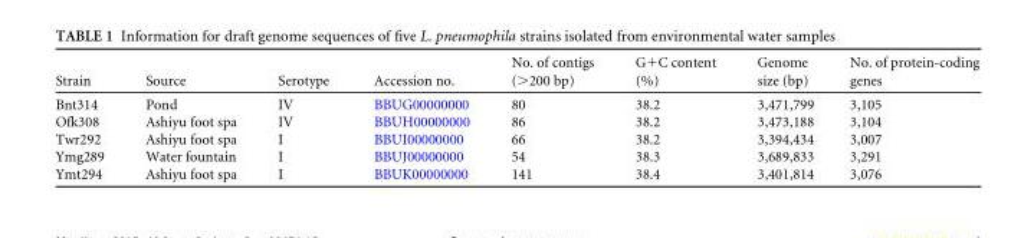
<table><thead><tr><td>Strain</td><td>Source</td><td>Serotype</td><td>Accession no.</td><td>No. of contigs (&gt;200 bp)</td><td>G+C content (%)</td><td>Genome size (bp)</td><td>No. of protein-coding genes</td></tr></thead><tbody><tr><td>Bnt314</td><td>Pond</td><td>IV</td><td>BBUG00000000</td><td>80</td><td>38.2</td><td>3,471,799</td><td>3,105</td></tr><tr><td>Ofk308</td><td>Ashiyu foot spa</td><td>IV</td><td>BBUH00000000</td><td>86</td><td>38.2</td><td>3,473,188</td><td>3,104</td></tr><tr><td>Twr292</td><td>Ashiyu foot spa</td><td>I</td><td>BBUI00000000</td><td>66</td><td>38.2</td><td>3,394,434</td><td>3,007</td></tr><tr><td>Ymg289</td><td>Water fountain</td><td>I</td><td>BBUJ00000000</td><td>54</td><td>38.3</td><td>3,689,833</td><td>3,291</td></tr><tr><td>Ymt294</td><td>Ashiyu foot spa</td><td>I</td><td>BBUK00000000</td><td>141</td><td>38.4</td><td>3,401,814</td><td>3,076</td></tr></tbody></table>